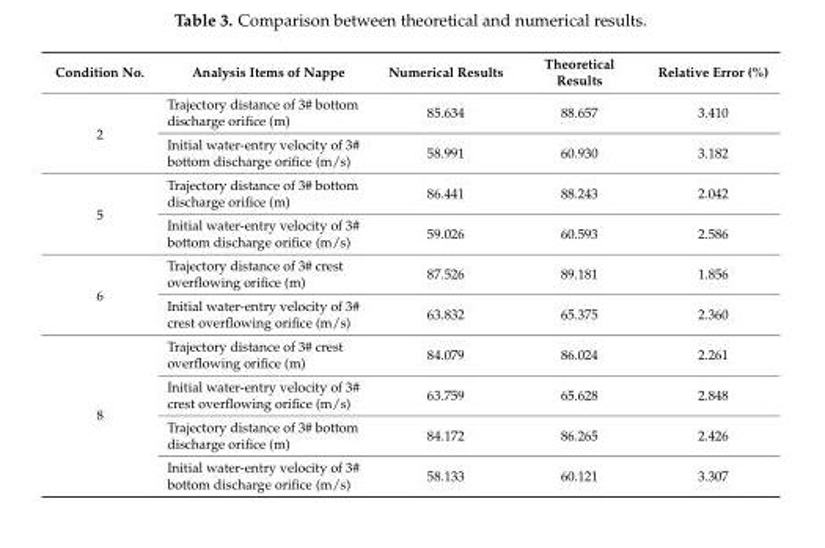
<table><thead><tr><td>Condition No.</td><td>Analysis Items of Nappe</td><td>Numerical Results</td><td>Theoretical Results</td><td>Relative Error (%)</td></tr></thead><tbody><tr><td rowspan="2">2</td><td>Trajectory distance of 3# bottom discharge orifice (m)</td><td>85.634</td><td>88.657</td><td>3.410</td></tr><tr><td>Initial water-entry velocity of 3# bottom discharge orifice (m/s)</td><td>58.991</td><td>60.930</td><td>3.182</td></tr><tr><td rowspan="2">5</td><td>Trajectory distance of 3# bottom discharge orifice (m)</td><td>86.441</td><td>88.243</td><td>2.042</td></tr><tr><td>Initial water-entry velocity of 3# bottom discharge orifice (m/s)</td><td>59.026</td><td>60.593</td><td>2.586</td></tr><tr><td rowspan="2">6</td><td>Trajectory distance of 3# crest overflowing orifice (m)</td><td>87.526</td><td>89.181</td><td>1.856</td></tr><tr><td>Initial water-entry velocity of 3# crest overflowing orifice (m/s)</td><td>63.832</td><td>65.375</td><td>2.360</td></tr><tr><td rowspan="4">8</td><td>Trajectory distance of 3# crest overflowing orifice (m)</td><td>84.079</td><td>86.024</td><td>2.261</td></tr><tr><td>Initial water-entry velocity of 3# crest overflowing orifice (m/s)</td><td>63.759</td><td>65.628</td><td>2.848</td></tr><tr><td>Trajectory distance of 3# bottom discharge orifice (m)</td><td>84.172</td><td>86.265</td><td>2.426</td></tr><tr><td>Initial water-entry velocity of 3# bottom discharge orifice (m/s)</td><td>58.133</td><td>60.121</td><td>3.307</td></tr></tbody></table>